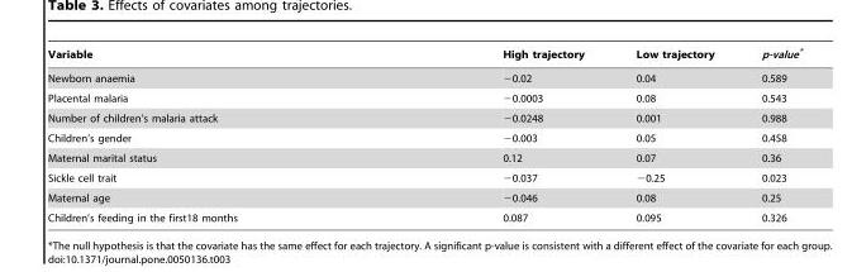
<table><thead><tr><td>Variable</td><td>High trajectory</td><td>Low trajectory</td><td>p-value*</td></tr></thead><tbody><tr><td>Newborn anaemia</td><td>−0.02</td><td>0.04</td><td>0.589</td></tr><tr><td>Placental malaria</td><td>−0.0003</td><td>0.08</td><td>0.543</td></tr><tr><td>Number of children’s malaria attack</td><td>−0.0248</td><td>0.001</td><td>0.988</td></tr><tr><td>Children’s gender</td><td>−0.003</td><td>0.05</td><td>0.458</td></tr><tr><td>Maternal marital status</td><td>0.12</td><td>0.07</td><td>0.36</td></tr><tr><td>Sickle cell trait</td><td>−0.037</td><td>−0.25</td><td>0.023</td></tr><tr><td>Maternal age</td><td>−0.046</td><td>0.08</td><td>0.25</td></tr><tr><td>Children’s feeding in the first18 months</td><td>0.087</td><td>0.095</td><td>0.326</td></tr></tbody></table>